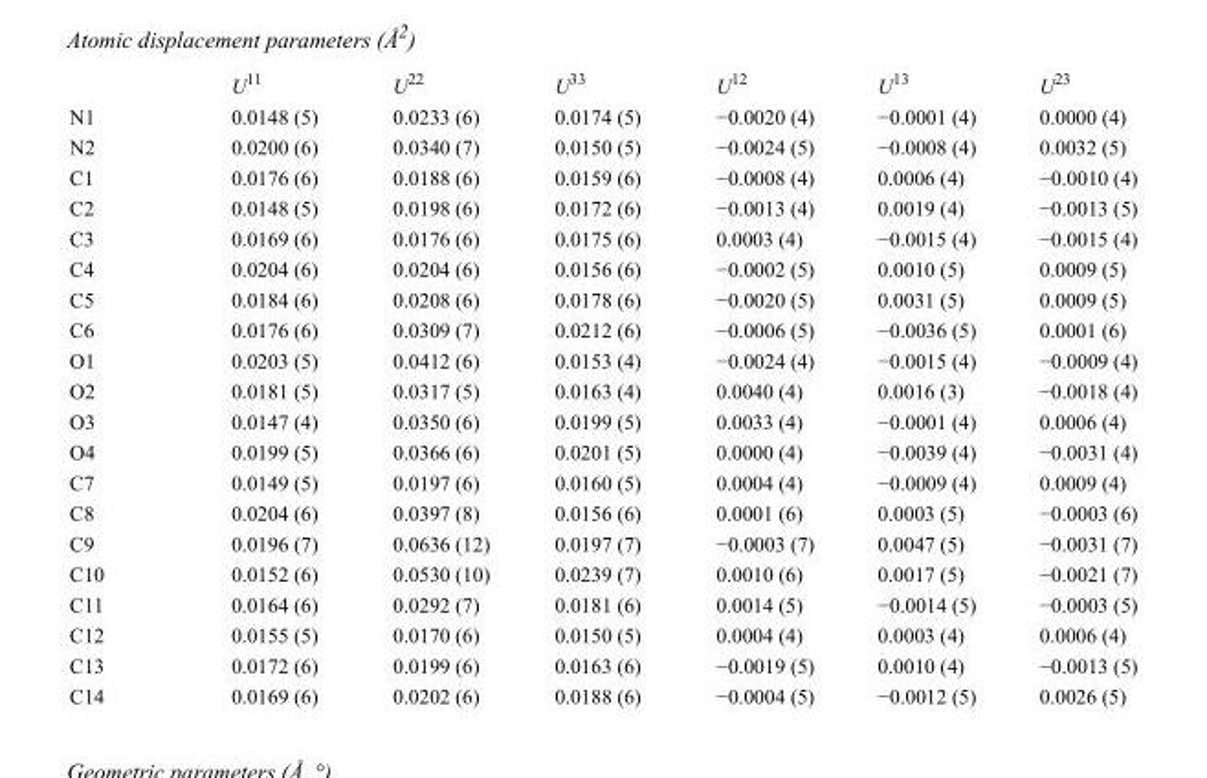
<table><thead><tr><td></td><td>U<sup>11</sup></td><td>U<sup>22</sup></td><td>U<sup>33</sup></td><td>U<sup>12</sup></td><td>U<sup>13</sup></td><td>U<sup>23</sup></td></tr></thead><tbody><tr><td>N1</td><td>0.0148 (5)</td><td>0.0233 (6)</td><td>0.0174 (5)</td><td>−0.0020 (4)</td><td>−0.0001 (4)</td><td>0.0000 (4)</td></tr><tr><td>N2</td><td>0.0200 (6)</td><td>0.0340 (7)</td><td>0.0150 (5)</td><td>−0.0024 (5)</td><td>−0.0008 (4)</td><td>0.0032 (5)</td></tr><tr><td>C1</td><td>0.0176 (6)</td><td>0.0188 (6)</td><td>0.0159 (6)</td><td>−0.0008 (4)</td><td>0.0006 (4)</td><td>−0.0010 (4)</td></tr><tr><td>C2</td><td>0.0148 (5)</td><td>0.0198 (6)</td><td>0.0172 (6)</td><td>−0.0013 (4)</td><td>0.0019 (4)</td><td>−0.0013 (5)</td></tr><tr><td>C3</td><td>0.0169 (6)</td><td>0.0176 (6)</td><td>0.0175 (6)</td><td>0.0003 (4)</td><td>−0.0015 (4)</td><td>−0.0015 (4)</td></tr><tr><td>C4</td><td>0.0204 (6)</td><td>0.0204 (6)</td><td>0.0156 (6)</td><td>−0.0002 (5)</td><td>0.0010 (5)</td><td>0.0009 (5)</td></tr><tr><td>C5</td><td>0.0184 (6)</td><td>0.0208 (6)</td><td>0.0178 (6)</td><td>−0.0020 (5)</td><td>0.0031 (5)</td><td>0.0009 (5)</td></tr><tr><td>C6</td><td>0.0176 (6)</td><td>0.0309 (7)</td><td>0.0212 (6)</td><td>−0.0006 (5)</td><td>−0.0036 (5)</td><td>0.0001 (6)</td></tr><tr><td>O1</td><td>0.0203 (5)</td><td>0.0412 (6)</td><td>0.0153 (4)</td><td>−0.0024 (4)</td><td>−0.0015 (4)</td><td>−0.0009 (4)</td></tr><tr><td>O2</td><td>0.0181 (5)</td><td>0.0317 (5)</td><td>0.0163 (4)</td><td>0.0040 (4)</td><td>0.0016 (3)</td><td>−0.0018 (4)</td></tr><tr><td>O3</td><td>0.0147 (4)</td><td>0.0350 (6)</td><td>0.0199 (5)</td><td>0.0033 (4)</td><td>−0.0001 (4)</td><td>0.0006 (4)</td></tr><tr><td>O4</td><td>0.0199 (5)</td><td>0.0366 (6)</td><td>0.0201 (5)</td><td>0.0000 (4)</td><td>−0.0039 (4)</td><td>−0.0031 (4)</td></tr><tr><td>C7</td><td>0.0149 (5)</td><td>0.0197 (6)</td><td>0.0160 (5)</td><td>0.0004 (4)</td><td>−0.0009 (4)</td><td>0.0009 (4)</td></tr><tr><td>C8</td><td>0.0204 (6)</td><td>0.0397 (8)</td><td>0.0156 (6)</td><td>0.0001 (6)</td><td>0.0003 (5)</td><td>−0.0003 (6)</td></tr><tr><td>C9</td><td>0.0196 (7)</td><td>0.0636 (12)</td><td>0.0197 (7)</td><td>−0.0003 (7)</td><td>0.0047 (5)</td><td>−0.0031 (7)</td></tr><tr><td>C10</td><td>0.0152 (6)</td><td>0.0530 (10)</td><td>0.0239 (7)</td><td>0.0010 (6)</td><td>0.0017 (5)</td><td>−0.0021 (7)</td></tr><tr><td>C11</td><td>0.0164 (6)</td><td>0.0292 (7)</td><td>0.0181 (6)</td><td>0.0014 (5)</td><td>−0.0014 (5)</td><td>−0.0003 (5)</td></tr><tr><td>C12</td><td>0.0155 (5)</td><td>0.0170 (6)</td><td>0.0150 (5)</td><td>0.0004 (4)</td><td>0.0003 (4)</td><td>0.0006 (4)</td></tr><tr><td>C13</td><td>0.0172 (6)</td><td>0.0199 (6)</td><td>0.0163 (6)</td><td>−0.0019 (5)</td><td>0.0010 (4)</td><td>−0.0013 (5)</td></tr><tr><td>C14</td><td>0.0169 (6)</td><td>0.0202 (6)</td><td>0.0188 (6)</td><td>−0.0004 (5)</td><td>−0.0012 (5)</td><td>0.0026 (5)</td></tr></tbody></table>